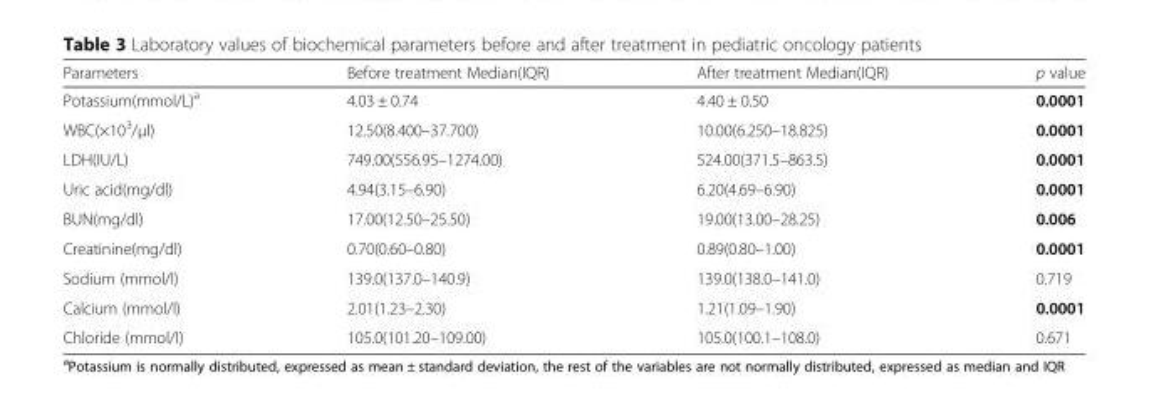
<table><thead><tr><td>Parameters</td><td>Before treatment Median(IQR)</td><td>After treatment Median(IQR)</td><td>p value</td></tr></thead><tbody><tr><td>Potassium(mmol/L)<sup>a</sup></td><td>4.03 ± 0.74</td><td>4.40 ± 0.50</td><td>0.0001</td></tr><tr><td>WBC(×10<sup>3</sup>/μl)</td><td>12.50(8.400–37.700)</td><td>10.00(6.250–18.825)</td><td>0.0001</td></tr><tr><td>LDH(IU/L)</td><td>749.00(556.95–1274.00)</td><td>524.00(371.5–863.5)</td><td>0.0001</td></tr><tr><td>Uric acid(mg/dl)</td><td>4.94(3.15–6.90)</td><td>6.20(4.69–6.90)</td><td>0.0001</td></tr><tr><td>BUN(mg/dl)</td><td>17.00(12.50–25.50)</td><td>19.00(13.00–28.25)</td><td>0.006</td></tr><tr><td>Creatinine(mg/dl)</td><td>0.70(0.60–0.80)</td><td>0.89(0.80–1.00)</td><td>0.0001</td></tr><tr><td>Sodium (mmol/l)</td><td>139.0(137.0–140.9)</td><td>139.0(138.0–141.0)</td><td>0.719</td></tr><tr><td>Calcium (mmol/l)</td><td>2.01(1.23–2.30)</td><td>1.21(1.09–1.90)</td><td>0.0001</td></tr><tr><td>Chloride (mmol/l)</td><td>105.0(101.20–109.00)</td><td>105.0(100.1–108.0)</td><td>0.671</td></tr></tbody></table>